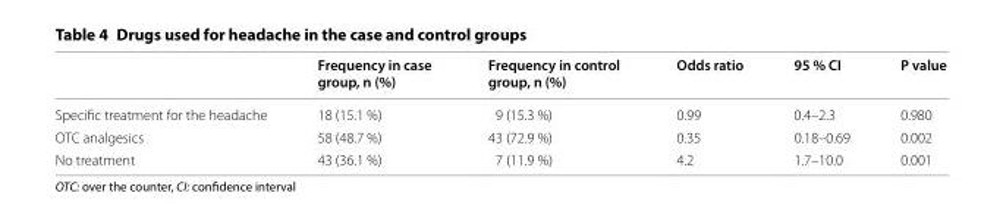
<table><thead><tr><td></td><td>Frequency in case group, n (%)</td><td>Frequency in control group, n (%)</td><td>Odds ratio</td><td>95 % CI</td><td>P value</td></tr></thead><tbody><tr><td>Specific treatment for the headache</td><td>18 (15.1 %)</td><td>9 (15.3 %)</td><td>0.99</td><td>0.4–2.3</td><td>0.980</td></tr><tr><td>OTC analgesics</td><td>58 (48.7 %)</td><td>43 (72.9 %)</td><td>0.35</td><td>0.18–0.69</td><td>0.002</td></tr><tr><td>No treatment</td><td>43 (36.1 %)</td><td>7 (11.9 %)</td><td>4.2</td><td>1.7–10.0</td><td>0.001</td></tr></tbody></table>